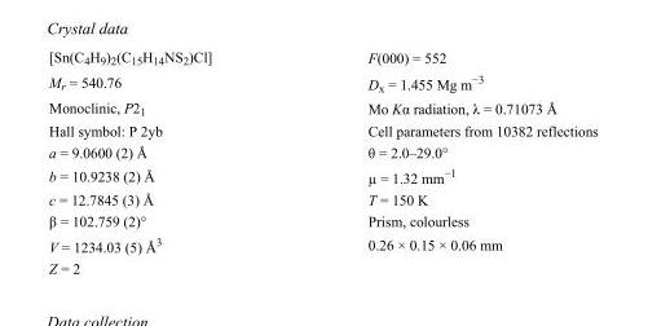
<table><tbody><tr><td>[Sn(C<sub>4</sub>H<sub>9</sub>)<sub>2</sub>(C<sub>15</sub>H<sub>14</sub>NS<sub>2</sub>)Cl]</td><td>F(000) = 552</td></tr><tr><td>M<sub>r</sub> = 540.76</td><td>D<sub>x</sub> = 1.455 Mg m<sup>−3</sup></td></tr><tr><td>Monoclinic, P2<sub>1</sub></td><td>Mo Kα radiation, λ = 0.71073 Å</td></tr><tr><td>Hall symbol: P 2yb</td><td>Cell parameters from 10382 reflections</td></tr><tr><td>a = 9.0600 (2) Å</td><td>θ = 2.0–29.0°</td></tr><tr><td>b = 10.9238 (2) Å</td><td>µ = 1.32 mm<sup>−1</sup></td></tr><tr><td>c = 12.7845 (3) Å</td><td>T = 150 K</td></tr><tr><td>β = 102.759 (2)°</td><td>Prism, colourless</td></tr><tr><td>V = 1234.03 (5) Å<sup>3</sup></td><td>0.26 × 0.15 × 0.06 mm</td></tr><tr><td>Z = 2</td><td></td></tr></tbody></table>